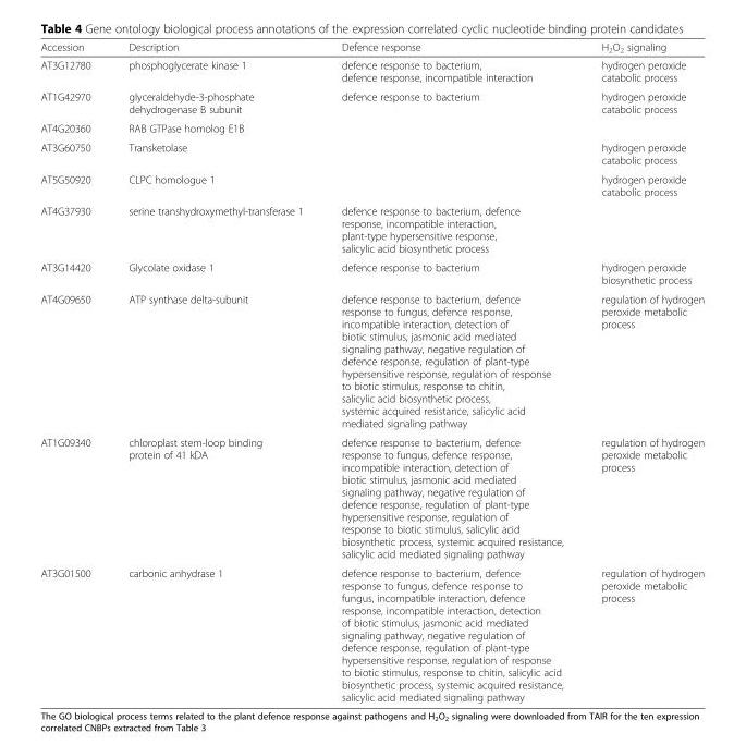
<table><thead><tr><td>Accession</td><td>Description</td><td>Defence response</td><td>H<sub>2</sub>O<sub>2</sub> signaling</td></tr></thead><tbody><tr><td>AT3G12780</td><td>phosphoglycerate kinase 1</td><td>defence response to bacterium, defence response, incompatible interaction</td><td>hydrogen peroxide catabolic process</td></tr><tr><td>AT1G42970</td><td>glyceraldehyde-3-phosphate dehydrogenase B subunit</td><td>defence response to bacterium</td><td>hydrogen peroxide catabolic process</td></tr><tr><td>AT4G20360</td><td>RAB GTPase homolog E1B</td><td></td><td></td></tr><tr><td>AT3G60750</td><td>Transketolase</td><td></td><td>hydrogen peroxide catabolic process</td></tr><tr><td>AT5G50920</td><td>CLPC homologue 1</td><td></td><td>hydrogen peroxide catabolic process</td></tr><tr><td>AT4G37930</td><td>serine transhydroxymethyl-transferase 1</td><td>defence response to bacterium, defence response, incompatible interaction, plant-type hypersensitive response, salicylic acid biosynthetic process</td><td></td></tr><tr><td>AT3G14420</td><td>Glycolate oxidase 1</td><td>defence response to bacterium</td><td>hydrogen peroxide biosynthetic process</td></tr><tr><td>AT4G09650</td><td>ATP synthase delta-subunit</td><td>defence response to bacterium, defence response to fungus, defence response, incompatible interaction, detection of biotic stimulus, jasmonic acid mediated signaling pathway, negative regulation of defence response, regulation of plant-type hypersensitive response, regulation of response to biotic stimulus, response to chitin, salicylic acid biosynthetic process, systemic acquired resistance, salicylic acid mediated signaling pathway</td><td>regulation of hydrogen peroxide metabolic process</td></tr><tr><td>AT1G09340</td><td>chloroplast stem-loop binding protein of 41 kDA</td><td>defence response to bacterium, defence response to fungus, defence response, incompatible interaction, detection of biotic stimulus, jasmonic acid mediated signaling pathway, negative regulation of defence response, regulation of plant-type hypersensitive response, regulation of response to biotic stimulus, salicylic acid biosynthetic process, systemic acquired resistance, salicylic acid mediated signaling pathway</td><td>regulation of hydrogen peroxide metabolic process</td></tr><tr><td>AT3G01500</td><td>carbonic anhydrase 1</td><td>defence response to bacterium, defence response to fungus, defence response to fungus, incompatible interaction, defence response, incompatible interaction, detection of biotic stimulus, jasmonic acid mediated signaling pathway, negative regulation of defence response, regulation of plant-type hypersensitive response, regulation of response to biotic stimulus, response to chitin, salicylic acid biosynthetic process, systemic acquired resistance, salicylic acid mediated signaling pathway</td><td>regulation of hydrogen peroxide metabolic process</td></tr></tbody></table>